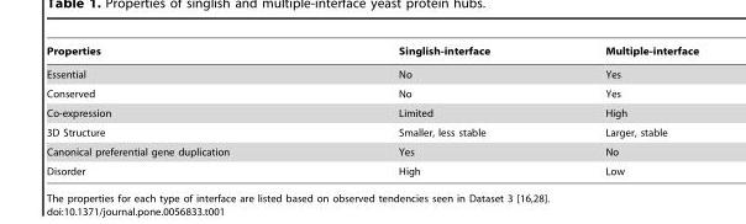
<table><thead><tr><td>Properties</td><td>Singlish-interface</td><td>Multiple-interface</td></tr></thead><tbody><tr><td>Essential</td><td>No</td><td>Yes</td></tr><tr><td>Conserved</td><td>No</td><td>Yes</td></tr><tr><td>Co-expression</td><td>Limited</td><td>High</td></tr><tr><td>3D Structure</td><td>Smaller, less stable</td><td>Larger, stable</td></tr><tr><td>Canonical preferential gene duplication</td><td>Yes</td><td>No</td></tr><tr><td>Disorder</td><td>High</td><td>Low</td></tr></tbody></table>